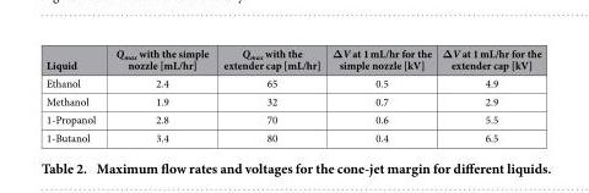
<table><thead><tr><td>Liquid</td><td>Q<sub>max</sub> with the simple nozzle [mL/hr]</td><td>Q<sub>max</sub> with the extender cap [mL/hr]</td><td>ΔV at 1 mL/hr for the simple nozzle [kV]</td><td>ΔV at 1 mL/hr for the extender cap [kV]</td></tr></thead><tbody><tr><td>Ethanol</td><td>2.4</td><td>65</td><td>0.5</td><td>4.9</td></tr><tr><td>Methanol</td><td>1.9</td><td>32</td><td>0.7</td><td>2.9</td></tr><tr><td>1-Propanol</td><td>2.8</td><td>70</td><td>0.6</td><td>5.5</td></tr><tr><td>1-Butanol</td><td>3.4</td><td>80</td><td>0.4</td><td>6.5</td></tr></tbody></table>